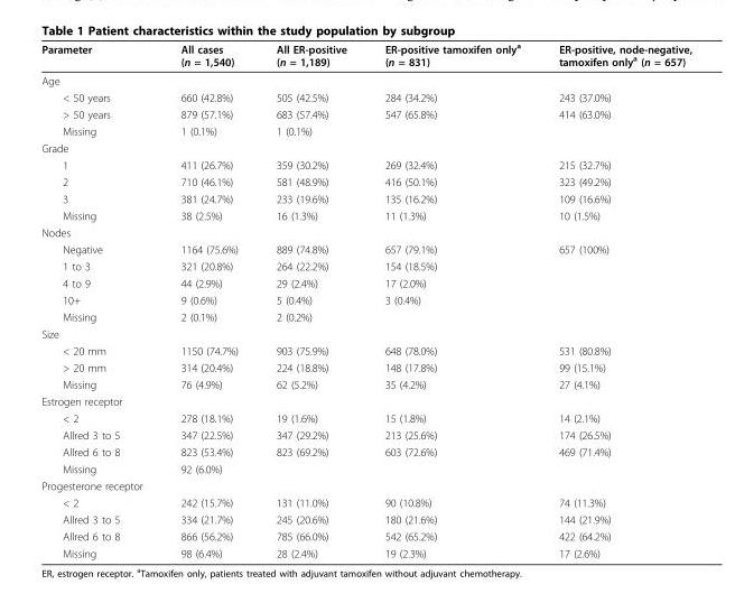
<table><thead><tr><td>Parameter</td><td>All cases (n = 1,540)</td><td>All ER-positive (n = 1,189)</td><td>ER-positive tamoxifen only<sup>a</sup> (n = 831)</td><td>ER-positive, node-negative, tamoxifen only<sup>a</sup> (n = 657)</td></tr></thead><tbody><tr><td colspan="5">Age</td></tr><tr><td>&lt; 50 years</td><td>660 (42.8%)</td><td>505 (42.5%)</td><td>284 (34.2%)</td><td>243 (37.0%)</td></tr><tr><td>&gt; 50 years</td><td>879 (57.1%)</td><td>683 (57.4%)</td><td>547 (65.8%)</td><td>414 (63.0%)</td></tr><tr><td>Missing</td><td>1 (0.1%)</td><td>1 (0.1%)</td><td></td><td></td></tr><tr><td colspan="5">Grade</td></tr><tr><td>1</td><td>411 (26.7%)</td><td>359 (30.2%)</td><td>269 (32.4%)</td><td>215 (32.7%)</td></tr><tr><td>2</td><td>710 (46.1%)</td><td>581 (48.9%)</td><td>416 (50.1%)</td><td>323 (49.2%)</td></tr><tr><td>3</td><td>381 (24.7%)</td><td>233 (19.6%)</td><td>135 (16.2%)</td><td>109 (16.6%)</td></tr><tr><td>Missing</td><td>38 (2.5%)</td><td>16 (1.3%)</td><td>11 (1.3%)</td><td>10 (1.5%)</td></tr><tr><td colspan="5">Nodes</td></tr><tr><td>Negative</td><td>1164 (75.6%)</td><td>889 (74.8%)</td><td>657 (79.1%)</td><td>657 (100%)</td></tr><tr><td>1 to 3</td><td>321 (20.8%)</td><td>264 (22.2%)</td><td>154 (18.5%)</td><td></td></tr><tr><td>4 to 9</td><td>44 (2.9%)</td><td>29 (2.4%)</td><td>17 (2.0%)</td><td></td></tr><tr><td>10+</td><td>9 (0.6%)</td><td>5 (0.4%)</td><td>3 (0.4%)</td><td></td></tr><tr><td>Missing</td><td>2 (0.1%)</td><td>2 (0.2%)</td><td></td><td></td></tr><tr><td colspan="5">Size</td></tr><tr><td>&lt; 20 mm</td><td>1150 (74.7%)</td><td>903 (75.9%)</td><td>648 (78.0%)</td><td>531 (80.8%)</td></tr><tr><td>&gt; 20 mm</td><td>314 (20.4%)</td><td>224 (18.8%)</td><td>148 (17.8%)</td><td>99 (15.1%)</td></tr><tr><td>Missing</td><td>76 (4.9%)</td><td>62 (5.2%)</td><td>35 (4.2%)</td><td>27 (4.1%)</td></tr><tr><td colspan="5">Estrogen receptor</td></tr><tr><td>&lt; 2</td><td>278 (18.1%)</td><td>19 (1.6%)</td><td>15 (1.8%)</td><td>14 (2.1%)</td></tr><tr><td>Allred 3 to 5</td><td>347 (22.5%)</td><td>347 (29.2%)</td><td>213 (25.6%)</td><td>174 (26.5%)</td></tr><tr><td>Allred 6 to 8</td><td>823 (53.4%)</td><td>823 (69.2%)</td><td>603 (72.6%)</td><td>469 (71.4%)</td></tr><tr><td>Missing</td><td>92 (6.0%)</td><td></td><td></td><td></td></tr><tr><td colspan="5">Progesterone receptor</td></tr><tr><td>&lt; 2</td><td>242 (15.7%)</td><td>131 (11.0%)</td><td>90 (10.8%)</td><td>74 (11.3%)</td></tr><tr><td>Allred 3 to 5</td><td>334 (21.7%)</td><td>245 (20.6%)</td><td>180 (21.6%)</td><td>144 (21.9%)</td></tr><tr><td>Allred 6 to 8</td><td>866 (56.2%)</td><td>785 (66.0%)</td><td>542 (65.2%)</td><td>422 (64.2%)</td></tr><tr><td>Missing</td><td>98 (6.4%)</td><td>28 (2.4%)</td><td>19 (2.3%)</td><td>17 (2.6%)</td></tr></tbody></table>